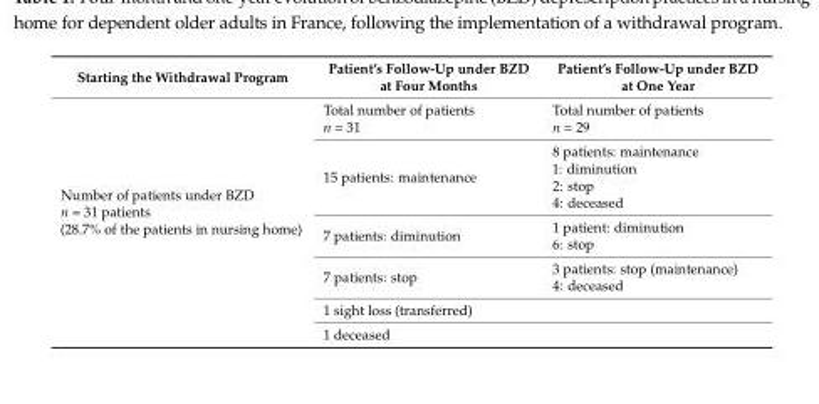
<table><thead><tr><td>Starting the Withdrawal Program</td><td>Patient’s Follow-Up under BZD at Four Months</td><td>Patient’s Follow-Up under BZD at One Year</td></tr></thead><tbody><tr><td rowspan="6">Number of patients under BZD n = 31 patients (28.7% of the patients in nursing home)</td><td>Total number of patients n = 31</td><td>Total number of patients n = 29</td></tr><tr><td>15 patients: maintenance</td><td>8 patients: maintenance 1: diminution 2: stop 4: deceased</td></tr><tr><td>7 patients: diminution</td><td>1 patient: diminution 6: stop</td></tr><tr><td>7 patients: stop</td><td>3 patients: stop (maintenance) 4: deceased</td></tr><tr><td>1 sight loss (transferred)</td><td></td></tr><tr><td>1 deceased</td><td></td></tr></tbody></table>